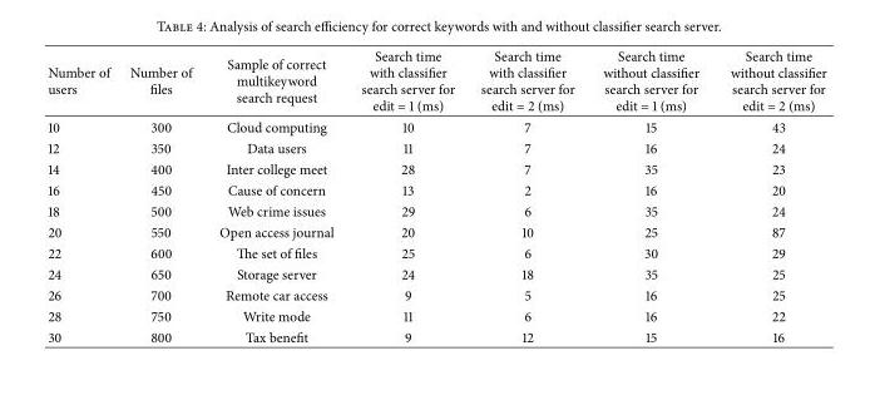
<table><thead><tr><td>Number of users</td><td>Number of files</td><td>Sample of correct multikeyword search request</td><td>Search time with classifier search server for edit = 1 (ms)</td><td>Search time with classifier search server for edit = 2 (ms)</td><td>Search time without classifier search server for edit = 1 (ms)</td><td>Search time without classifier search server for edit = 2 (ms)</td></tr></thead><tbody><tr><td>10</td><td>300</td><td>Cloud computing</td><td>10</td><td>7</td><td>15</td><td>43</td></tr><tr><td>12</td><td>350</td><td>Data users</td><td>11</td><td>7</td><td>16</td><td>24</td></tr><tr><td>14</td><td>400</td><td>Inter college meet</td><td>28</td><td>7</td><td>35</td><td>23</td></tr><tr><td>16</td><td>450</td><td>Cause of concern</td><td>13</td><td>2</td><td>16</td><td>20</td></tr><tr><td>18</td><td>500</td><td>Web crime issues</td><td>29</td><td>6</td><td>35</td><td>24</td></tr><tr><td>20</td><td>550</td><td>Open access journal</td><td>20</td><td>10</td><td>25</td><td>87</td></tr><tr><td>22</td><td>600</td><td>The set of files</td><td>25</td><td>6</td><td>30</td><td>29</td></tr><tr><td>24</td><td>650</td><td>Storage server</td><td>24</td><td>18</td><td>35</td><td>25</td></tr><tr><td>26</td><td>700</td><td>Remote car access</td><td>9</td><td>5</td><td>16</td><td>25</td></tr><tr><td>28</td><td>750</td><td>Write mode</td><td>11</td><td>6</td><td>16</td><td>22</td></tr><tr><td>30</td><td>800</td><td>Tax benefit</td><td>9</td><td>12</td><td>15</td><td>16</td></tr></tbody></table>